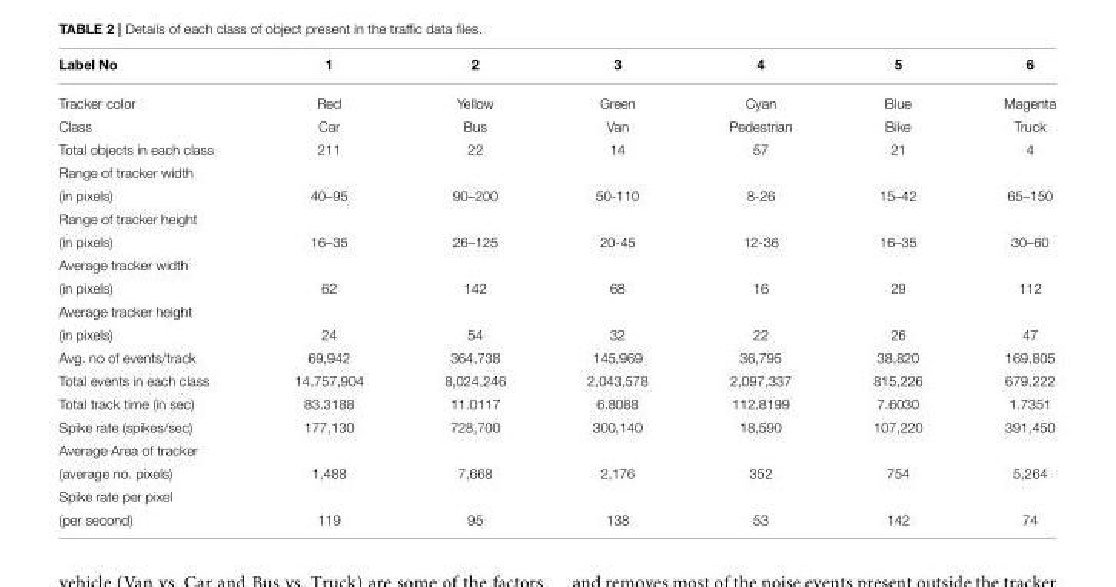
<table><thead><tr><td>Label No</td><td>1</td><td>2</td><td>3</td><td>4</td><td>5</td><td>6</td></tr></thead><tbody><tr><td>Tracker color</td><td>Red</td><td>Yellow</td><td>Green</td><td>Cyan</td><td>Blue</td><td>Magenta</td></tr><tr><td>Class</td><td>Car</td><td>Bus</td><td>Van</td><td>Pedestrian</td><td>Bike</td><td>Truck</td></tr><tr><td>Total objects in each class</td><td>211</td><td>22</td><td>14</td><td>57</td><td>21</td><td>4</td></tr><tr><td>Range of tracker width (in pixels)</td><td>40–95</td><td>90–200</td><td>50-110</td><td>8-26</td><td>15–42</td><td>65–150</td></tr><tr><td>Range of tracker height (in pixels)</td><td>16–35</td><td>26–125</td><td>20-45</td><td>12-36</td><td>16–35</td><td>30–60</td></tr><tr><td>Average tracker width (in pixels)</td><td>62</td><td>142</td><td>68</td><td>16</td><td>29</td><td>112</td></tr><tr><td>Average tracker height (in pixels)</td><td>24</td><td>54</td><td>32</td><td>22</td><td>26</td><td>47</td></tr><tr><td>Avg. no of events/track</td><td>69,942</td><td>364,738</td><td>145,969</td><td>36,795</td><td>38,820</td><td>169,805</td></tr><tr><td>Total events in each class</td><td>14,757,904</td><td>8,024,246</td><td>2,043,578</td><td>2,097,337</td><td>815,226</td><td>679,222</td></tr><tr><td>Total track time (in sec)</td><td>83.3188</td><td>11.0117</td><td>6.8088</td><td>112.8199</td><td>7.6030</td><td>1.7351</td></tr><tr><td>Spike rate (spikes/sec)</td><td>177,130</td><td>728,700</td><td>300,140</td><td>18,590</td><td>107,220</td><td>391,450</td></tr><tr><td>Average Area of tracker (average no. pixels)</td><td>1,488</td><td>7,668</td><td>2,176</td><td>352</td><td>754</td><td>5,264</td></tr><tr><td>Spike rate per pixel (per second)</td><td>119</td><td>95</td><td>138</td><td>53</td><td>142</td><td>74</td></tr></tbody></table>